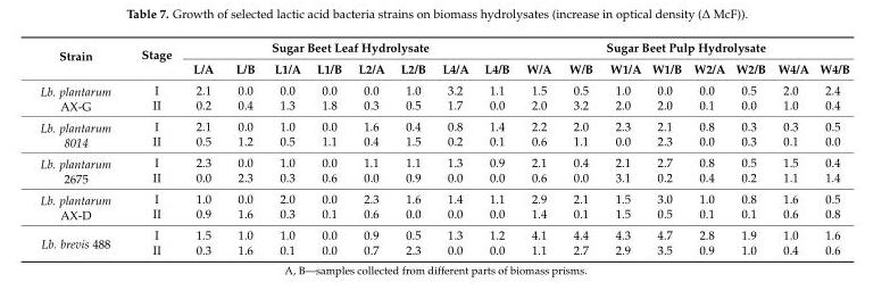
<table><thead><tr><td rowspan="2">Strain</td><td rowspan="2">Stage</td><td colspan="8">Sugar Beet Leaf Hydrolysate</td><td colspan="8">Sugar Beet Pulp Hydrolysate</td></tr><tr><td>L/A</td><td>L/B</td><td>L1/A</td><td>L1/B</td><td>L2/A</td><td>L2/B</td><td>L4/A</td><td>L4/B</td><td>W/A</td><td>W/B</td><td>W1/A</td><td>W1/B</td><td>W2/A</td><td>W2/B</td><td>W4/A</td><td>W4/B</td></tr></thead><tbody><tr><td rowspan="2">Lb. plantarum AX-G</td><td>I</td><td>2.1</td><td>0.0</td><td>0.0</td><td>0.0</td><td>0.0</td><td>1.0</td><td>3.2</td><td>1.1</td><td>1.5</td><td>0.5</td><td>1.0</td><td>0.0</td><td>0.0</td><td>0.5</td><td>2.0</td><td>2.4</td></tr><tr><td>II</td><td>0.2</td><td>0.4</td><td>1.3</td><td>1.8</td><td>0.3</td><td>0.5</td><td>1.7</td><td>0.0</td><td>2.0</td><td>3.2</td><td>2.0</td><td>2.0</td><td>0.1</td><td>0.0</td><td>1.0</td><td>0.4</td></tr><tr><td rowspan="2">Lb. plantarum 8014</td><td>I</td><td>2.1</td><td>0.0</td><td>1.0</td><td>0.0</td><td>1.6</td><td>0.4</td><td>0.8</td><td>1.4</td><td>2.2</td><td>2.0</td><td>2.3</td><td>2.1</td><td>0.8</td><td>0.3</td><td>0.3</td><td>0.5</td></tr><tr><td>II</td><td>0.5</td><td>1.2</td><td>0.5</td><td>1.1</td><td>0.4</td><td>1.5</td><td>0.2</td><td>0.1</td><td>0.6</td><td>1.1</td><td>0.0</td><td>2.3</td><td>0.0</td><td>0.3</td><td>0.1</td><td>0.0</td></tr><tr><td rowspan="2">Lb. plantarum 2675</td><td>I</td><td>2.3</td><td>0.0</td><td>1.0</td><td>0.0</td><td>1.1</td><td>1.1</td><td>1.3</td><td>0.9</td><td>2.1</td><td>0.4</td><td>2.1</td><td>2.7</td><td>0.8</td><td>0.5</td><td>1.5</td><td>0.4</td></tr><tr><td>II</td><td>0.0</td><td>2.3</td><td>0.3</td><td>0.6</td><td>0.0</td><td>0.9</td><td>0.0</td><td>0.0</td><td>0.6</td><td>0.0</td><td>3.1</td><td>0.2</td><td>0.4</td><td>0.2</td><td>1.1</td><td>1.4</td></tr><tr><td rowspan="2">Lb. plantarum AX-D</td><td>I</td><td>1.0</td><td>0.0</td><td>2.0</td><td>0.0</td><td>2.3</td><td>1.6</td><td>1.4</td><td>1.1</td><td>2.9</td><td>2.1</td><td>1.5</td><td>3.0</td><td>1.0</td><td>0.8</td><td>1.6</td><td>0.5</td></tr><tr><td>II</td><td>0.9</td><td>1.6</td><td>0.3</td><td>0.1</td><td>0.6</td><td>0.0</td><td>0.0</td><td>0.0</td><td>1.4</td><td>0.1</td><td>1.5</td><td>0.5</td><td>0.1</td><td>0.1</td><td>0.6</td><td>0.8</td></tr><tr><td rowspan="2">Lb. brevis 488</td><td>I</td><td>1.5</td><td>1.0</td><td>1.0</td><td>0.0</td><td>0.9</td><td>0.5</td><td>1.3</td><td>1.2</td><td>4.1</td><td>4.4</td><td>4.3</td><td>4.7</td><td>2.8</td><td>1.9</td><td>1.0</td><td>1.6</td></tr><tr><td>II</td><td>0.3</td><td>1.6</td><td>0.1</td><td>0.0</td><td>0.7</td><td>2.3</td><td>0.0</td><td>0.0</td><td>1.1</td><td>2.7</td><td>2.9</td><td>3.5</td><td>0.9</td><td>1.0</td><td>0.4</td><td>0.6</td></tr></tbody></table>